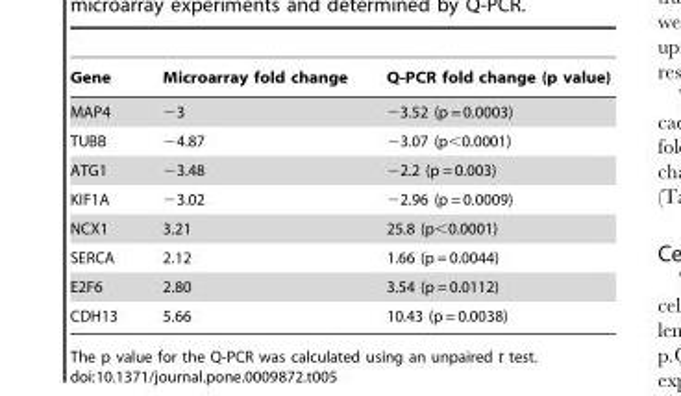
<table><thead><tr><td>Gene</td><td>Microarray fold change</td><td>Q-PCR fold change (p value)</td></tr></thead><tbody><tr><td>MAP4</td><td>−3</td><td>−3.52 (p = 0.0003)</td></tr><tr><td>TUBB</td><td>−4.87</td><td>−3.07 (p&lt;0.0001)</td></tr><tr><td>ATG1</td><td>−3.48</td><td>−2.2 (p = 0.003)</td></tr><tr><td>KIF1A</td><td>−3.02</td><td>−2.96 (p = 0.0009)</td></tr><tr><td>NCX1</td><td>3.21</td><td>25.8 (p&lt;0.0001)</td></tr><tr><td>SERCA</td><td>2.12</td><td>1.66 (p = 0.0044)</td></tr><tr><td>E2F6</td><td>2.80</td><td>3.54 (p = 0.0112)</td></tr><tr><td>CDH13</td><td>5.66</td><td>10.43 (p = 0.0038)</td></tr></tbody></table>